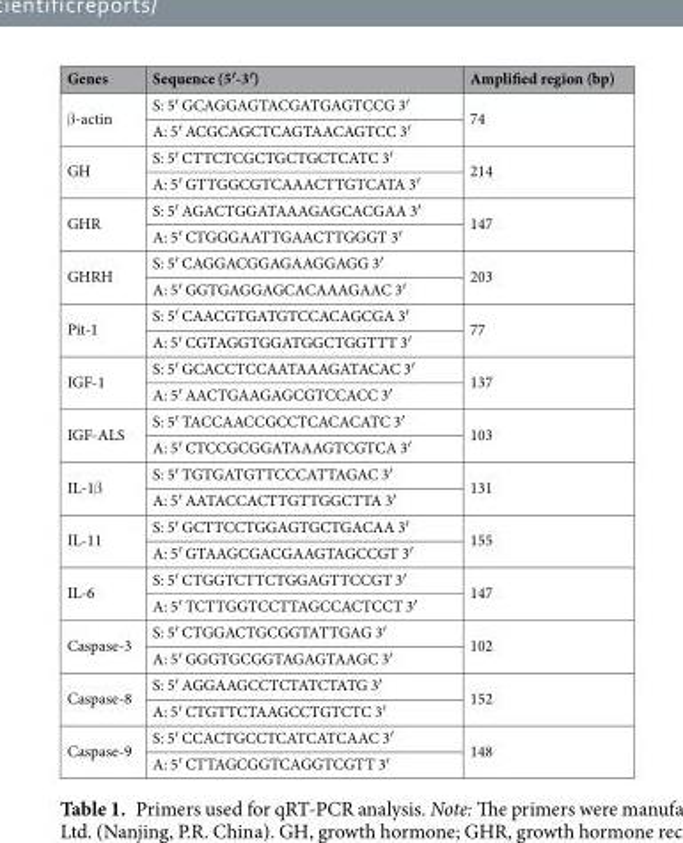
<table><thead><tr><td>Genes</td><td>Sequence (5′-3′)</td><td>Amplified region (bp)</td></tr></thead><tbody><tr><td rowspan="2">β-actin</td><td>S: 5′ GCAGGAGTACGATGAGTCCG 3′</td><td rowspan="2">74</td></tr><tr><td>A: 5′ ACGCAGCTCAGTAACAGTCC 3′</td></tr><tr><td rowspan="2">GH</td><td>S: 5′ CTTCTCGCTGCTGCTCATC 3′</td><td rowspan="2">214</td></tr><tr><td>A: 5′ GTTGGCGTCAAACTTGTCATA 3′</td></tr><tr><td rowspan="2">GHR</td><td>S: 5′ AGACTGGATAAAGAGCACGAA 3′</td><td rowspan="2">147</td></tr><tr><td>A: 5′ CTGGGAATTGAACTTGGGT 3′</td></tr><tr><td rowspan="2">GHRH</td><td>S: 5′ CAGGACGGAGAAGGAGG 3′</td><td rowspan="2">203</td></tr><tr><td>A: 5′ GGTGAGGAGCACAAAGAAC 3′</td></tr><tr><td rowspan="2">Pit-1</td><td>S: 5′ CAACGTGATGTCCACAGCGA 3′</td><td rowspan="2">77</td></tr><tr><td>A: 5′ CGTAGGTGGATGGCTGGTTT 3′</td></tr><tr><td rowspan="2">IGF-1</td><td>S: 5′ GCACCTCCAATAAAGATACAC 3′</td><td rowspan="2">137</td></tr><tr><td>A: 5′ AACTGAAGAGCGTCCACC 3′</td></tr><tr><td rowspan="2">IGF-ALS</td><td>S: 5′ TACCAACCGCCTCACACATC 3′</td><td rowspan="2">103</td></tr><tr><td>A: 5′ CTCCGCGGATAAAGTCGTCA 3′</td></tr><tr><td rowspan="2">IL-1β</td><td>S: 5′ TGTGATGTTCCCATTAGAC 3′</td><td rowspan="2">131</td></tr><tr><td>A: 5′ AATACCACTTGTTGGCTTA 3′</td></tr><tr><td rowspan="2">IL-11</td><td>S: 5′ GCTTCCTGGAGTGCTGACAA 3′</td><td rowspan="2">155</td></tr><tr><td>A: 5′ GTAAGCGACGAAGTAGCCGT 3′</td></tr><tr><td rowspan="2">IL-6</td><td>S: 5′ CTGGTCTTCTGGAGTTCCGT 3′</td><td rowspan="2">147</td></tr><tr><td>A: 5′ TCTTGGTCCTTAGCCACTCCT 3′</td></tr><tr><td rowspan="2">Caspase-3</td><td>S: 5′ CTGGACTGCGGTATTGAG 3′</td><td rowspan="2">102</td></tr><tr><td>A: 5′ GGGTGCGGTAGAGTAAGC 3′</td></tr><tr><td rowspan="2">Caspase-8</td><td>S: 5′ AGGAAGCCTCTATCTATG 3′</td><td rowspan="2">152</td></tr><tr><td>A: 5′ CTGTTCTAAGCCTGTCTC 3′</td></tr><tr><td rowspan="2">Caspase-9</td><td>S: 5′ CCACTGCCTCATCATCAAC 3′</td><td rowspan="2">148</td></tr><tr><td>A: 5′ CTTAGCGGTCAGGTCGTT 3′</td></tr></tbody></table>